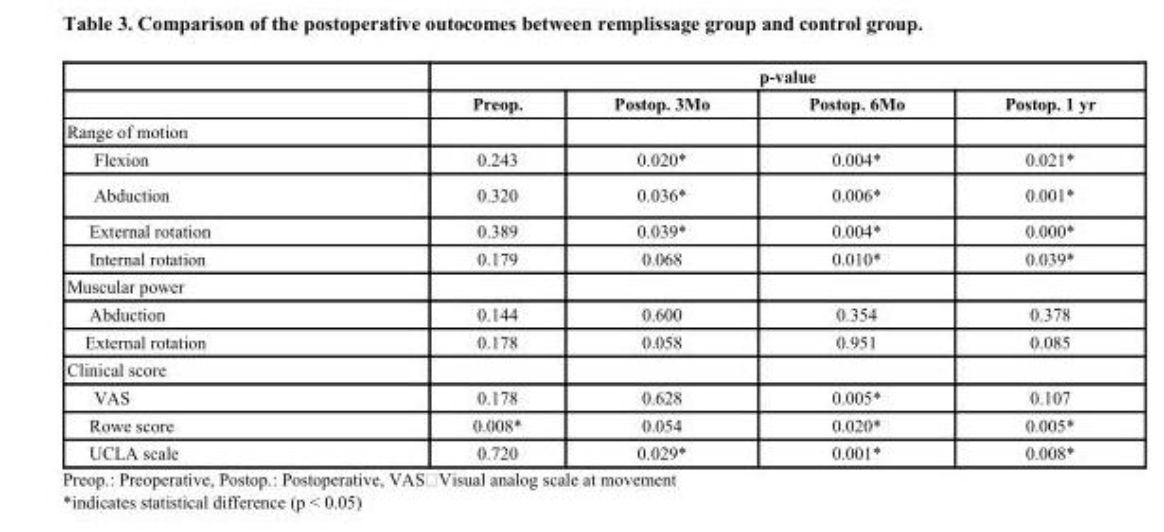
<table><thead><tr><td rowspan="2"></td><td colspan="4">p-value</td></tr><tr><td>Preop.</td><td>Postop. 3Mo</td><td>Postop. 6Mo</td><td>Postop. 1 yr</td></tr></thead><tbody><tr><td colspan="5">Range of motion</td></tr><tr><td>Flexion</td><td>0.243</td><td>0.020*</td><td>0.004*</td><td>0.021*</td></tr><tr><td>Abduction</td><td>0.320</td><td>0.036*</td><td>0.006*</td><td>0.001*</td></tr><tr><td>External rotation</td><td>0.389</td><td>0.039*</td><td>0.004*</td><td>0.000*</td></tr><tr><td>Internal rotation</td><td>0.179</td><td>0.068</td><td>0.010*</td><td>0.039*</td></tr><tr><td colspan="5">Muscular power</td></tr><tr><td>Abduction</td><td>0.144</td><td>0.600</td><td>0.354</td><td>0.378</td></tr><tr><td>External rotation</td><td>0.178</td><td>0.058</td><td>0.951</td><td>0.085</td></tr><tr><td colspan="5">Clinical score</td></tr><tr><td>VAS</td><td>0.178</td><td>0.628</td><td>0.005*</td><td>0.107</td></tr><tr><td>Rowe score</td><td>0.008*</td><td>0.054</td><td>0.020*</td><td>0.005*</td></tr><tr><td>UCLA scale</td><td>0.720</td><td>0.029*</td><td>0.001*</td><td>0.008*</td></tr></tbody></table>